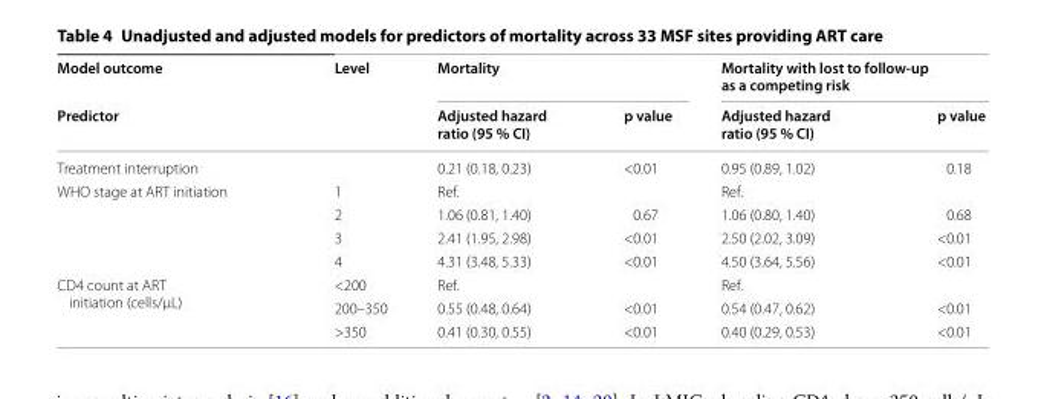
<table><thead><tr><td rowspan="2">Model outcome Predictor</td><td rowspan="2">Level</td><td colspan="2">Mortality</td><td colspan="2">Mortality with lost to follow-up as a competing risk</td></tr><tr><td>Adjusted hazard ratio (95 % CI)</td><td>p value</td><td>Adjusted hazard ratio (95 % CI)</td><td>p value</td></tr></thead><tbody><tr><td>Treatment interruption</td><td></td><td>0.21 (0.18, 0.23)</td><td>&lt;0.01</td><td>0.95 (0.89, 1.02)</td><td>0.18</td></tr><tr><td rowspan="4">WHO stage at ART initiation</td><td>1</td><td>Ref.</td><td></td><td>Ref.</td><td></td></tr><tr><td>2</td><td>1.06 (0.81, 1.40)</td><td>0.67</td><td>1.06 (0.80, 1.40)</td><td>0.68</td></tr><tr><td>3</td><td>2.41 (1.95, 2.98)</td><td>&lt;0.01</td><td>2.50 (2.02, 3.09)</td><td>&lt;0.01</td></tr><tr><td>4</td><td>4.31 (3.48, 5.33)</td><td>&lt;0.01</td><td>4.50 (3.64, 5.56)</td><td>&lt;0.01</td></tr><tr><td rowspan="3">CD4 count at ART initiation (cells/μL)</td><td>&lt;200</td><td>Ref.</td><td></td><td>Ref.</td><td></td></tr><tr><td>200–350</td><td>0.55 (0.48, 0.64)</td><td>&lt;0.01</td><td>0.54 (0.47, 0.62)</td><td>&lt;0.01</td></tr><tr><td>&gt;350</td><td>0.41 (0.30, 0.55)</td><td>&lt;0.01</td><td>0.40 (0.29, 0.53)</td><td>&lt;0.01</td></tr></tbody></table>